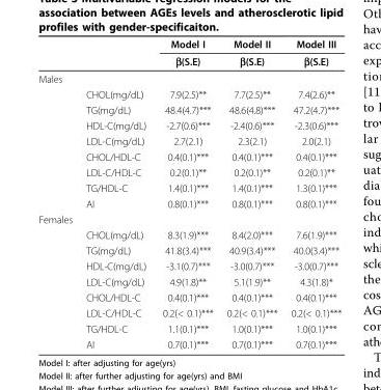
<table><thead><tr><td rowspan="2"></td><td rowspan="2"></td><td rowspan="2">Model I β(S.E)</td><td rowspan="2">Model II β(S.E)</td><td rowspan="2">Model III β(S.E)</td></tr><tr></tr></thead><tbody><tr><td colspan="5">Males</td></tr><tr><td></td><td>CHOL(mg/dL)</td><td>7.9(2.5)**</td><td>7.7(2.5)**</td><td>7.4(2.6)**</td></tr><tr><td></td><td>TG(mg/dL)</td><td>48.4(4.7)***</td><td>48.6(4.8)***</td><td>47.2(4.7)***</td></tr><tr><td></td><td>HDL-C(mg/dL)</td><td>-2.7(0.6)***</td><td>-2.4(0.6)***</td><td>-2.3(0.6)***</td></tr><tr><td></td><td>LDL-C(mg/dL)</td><td>2.7(2.1)</td><td>2.3(2.1)</td><td>2.0(2.1)</td></tr><tr><td></td><td>CHOL/HDL-C</td><td>0.4(0.1)***</td><td>0.4(0.1)***</td><td>0.4(0.1)***</td></tr><tr><td></td><td>LDL-C/HDL-C</td><td>0.2(0.1)**</td><td>0.2(0.1)**</td><td>0.2(0.1)**</td></tr><tr><td></td><td>TG/HDL-C</td><td>1.4(0.1)***</td><td>1.4(0.1)***</td><td>1.3(0.1)***</td></tr><tr><td></td><td>AI</td><td>0.8(0.1)***</td><td>0.8(0.1)***</td><td>0.8(0.1)***</td></tr><tr><td colspan="5">Females</td></tr><tr><td></td><td>CHOL(mg/dL)</td><td>8.3(1.9)***</td><td>8.4(2.0)***</td><td>7.6(1.9)***</td></tr><tr><td></td><td>TG(mg/dL)</td><td>41.8(3.4)***</td><td>40.9(3.4)***</td><td>40.0(3.4)***</td></tr><tr><td></td><td>HDL-C(mg/dL)</td><td>-3.1(0.7)***</td><td>-3.0(0.7)***</td><td>-3.0(0.7)***</td></tr><tr><td></td><td>LDL-C(mg/dL)</td><td>4.9(1.8)**</td><td>5.1(1.9)**</td><td>4.3(1.8)*</td></tr><tr><td></td><td>CHOL/HDL-C</td><td>0.4(0.1)***</td><td>0.4(0.1)***</td><td>0.4(0.1)***</td></tr><tr><td></td><td>LDL-C/HDL-C</td><td>0.2(&lt; 0.1)***</td><td>0.2(&lt; 0.1)***</td><td>0.2(&lt; 0.1)***</td></tr><tr><td></td><td>TG/HDL-C</td><td>1.1(0.1)***</td><td>1.0(0.1)***</td><td>1.0(0.1)***</td></tr><tr><td></td><td>AI</td><td>0.7(0.1)***</td><td>0.7(0.1)***</td><td>0.7(0.1)***</td></tr></tbody></table>